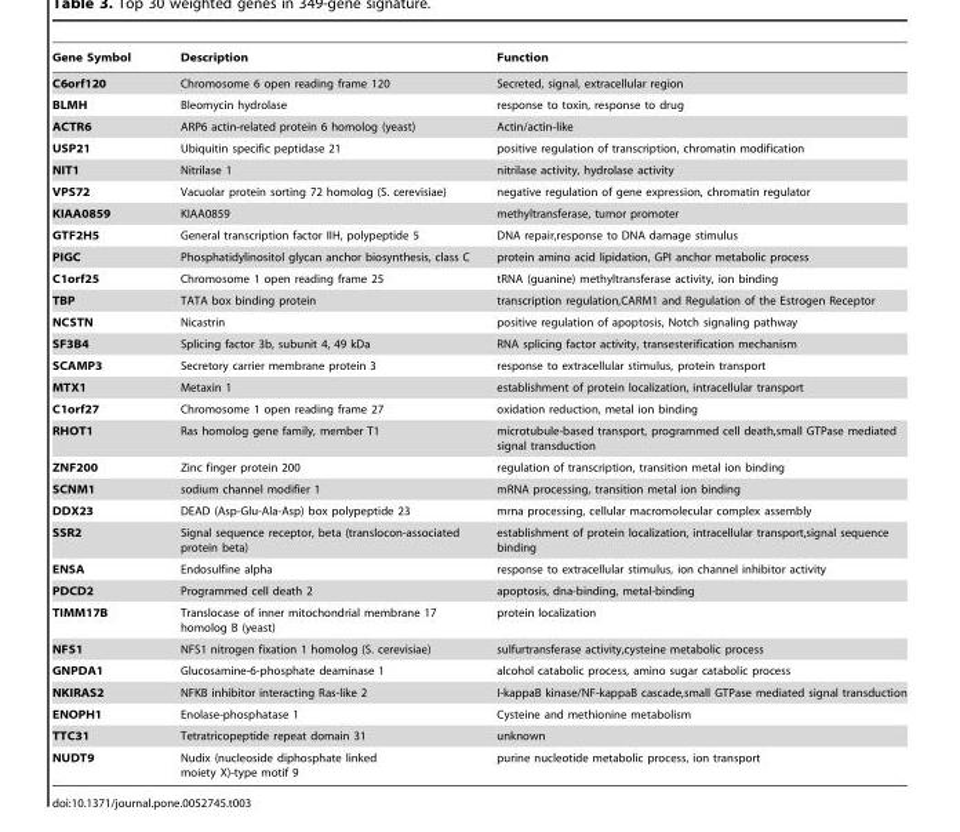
<table><thead><tr><td>Gene Symbol</td><td>Description</td><td>Function</td></tr></thead><tbody><tr><td>C6orf120</td><td>Chromosome 6 open reading frame 120</td><td>Secreted, signal, extracellular region</td></tr><tr><td>BLMH</td><td>Bleomycin hydrolase</td><td>response to toxin, response to drug</td></tr><tr><td>ACTR6</td><td>ARP6 actin-related protein 6 homolog (yeast)</td><td>Actin/actin-like</td></tr><tr><td>USP21</td><td>Ubiquitin specific peptidase 21</td><td>positive regulation of transcription, chromatin modification</td></tr><tr><td>NIT1</td><td>Nitrilase 1</td><td>nitrilase activity, hydrolase activity</td></tr><tr><td>VPS72</td><td>Vacuolar protein sorting 72 homolog (S. cerevisiae)</td><td>negative regulation of gene expression, chromatin regulator</td></tr><tr><td>KIAA0859</td><td>KIAA0859</td><td>methyltransferase, tumor promoter</td></tr><tr><td>GTF2H5</td><td>General transcription factor IIH, polypeptide 5</td><td>DNA repair,response to DNA damage stimulus</td></tr><tr><td>PIGC</td><td>Phosphatidylinositol glycan anchor biosynthesis, class C</td><td>protein amino acid lipidation, GPI anchor metabolic process</td></tr><tr><td>C1orf25</td><td>Chromosome 1 open reading frame 25</td><td>tRNA (guanine) methyltransferase activity, ion binding</td></tr><tr><td>TBP</td><td>TATA box binding protein</td><td>transcription regulation,CARM1 and Regulation of the Estrogen Receptor</td></tr><tr><td>NCSTN</td><td>Nicastrin</td><td>positive regulation of apoptosis, Notch signaling pathway</td></tr><tr><td>SF3B4</td><td>Splicing factor 3b, subunit 4, 49 kDa</td><td>RNA splicing factor activity, transesterification mechanism</td></tr><tr><td>SCAMP3</td><td>Secretory carrier membrane protein 3</td><td>response to extracellular stimulus, protein transport</td></tr><tr><td>MTX1</td><td>Metaxin 1</td><td>establishment of protein localization, intracellular transport</td></tr><tr><td>C1orf27</td><td>Chromosome 1 open reading frame 27</td><td>oxidation reduction, metal ion binding</td></tr><tr><td>RHOT1</td><td>Ras homolog gene family, member T1</td><td>microtubule-based transport, programmed cell death,small GTPase mediated signal transduction</td></tr><tr><td>ZNF200</td><td>Zinc finger protein 200</td><td>regulation of transcription, transition metal ion binding</td></tr><tr><td>SCNM1</td><td>sodium channel modifier 1</td><td>mRNA processing, transition metal ion binding</td></tr><tr><td>DDX23</td><td>DEAD (Asp-Glu-Ala-Asp) box polypeptide 23</td><td>mrna processing, cellular macromolecular complex assembly</td></tr><tr><td>SSR2</td><td>Signal sequence receptor, beta (translocon-associated protein beta)</td><td>establishment of protein localization, intracellular transport,signal sequence binding</td></tr><tr><td>ENSA</td><td>Endosulfine alpha</td><td>response to extracellular stimulus, ion channel inhibitor activity</td></tr><tr><td>PDCD2</td><td>Programmed cell death 2</td><td>apoptosis, dna-binding, metal-binding</td></tr><tr><td>TIMM17B</td><td>Translocase of inner mitochondrial membrane 17 homolog B (yeast)</td><td>protein localization</td></tr><tr><td>NFS1</td><td>NFS1 nitrogen fixation 1 homolog (S. cerevisiae)</td><td>sulfurtransferase activity,cysteine metabolic process</td></tr><tr><td>GNPDA1</td><td>Glucosamine-6-phosphate deaminase 1</td><td>alcohol catabolic process, amino sugar catabolic process</td></tr><tr><td>NKIRAS2</td><td>NFKB inhibitor interacting Ras-like 2</td><td>I-kappaB kinase/NF-kappaB cascade,small GTPase mediated signal transduction</td></tr><tr><td>ENOPH1</td><td>Enolase-phosphatase 1</td><td>Cysteine and methionine metabolism</td></tr><tr><td>TTC31</td><td>Tetratricopeptide repeat domain 31</td><td>unknown</td></tr><tr><td>NUDT9</td><td>Nudix (nucleoside diphosphate linked moiety X)-type motif 9</td><td>purine nucleotide metabolic process, ion transport</td></tr></tbody></table>